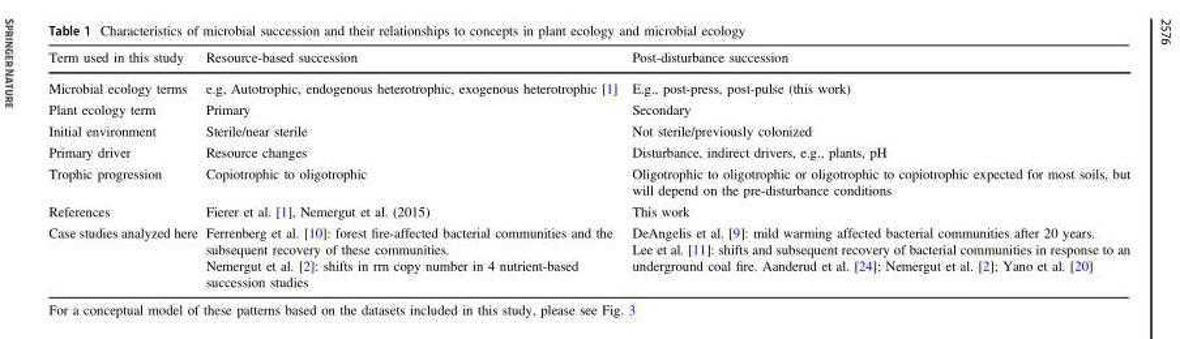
<table><thead><tr><td>Term used in this study</td><td>Resource-based succession</td><td>Post-disturbance succession</td></tr></thead><tbody><tr><td>Microbial ecology terms</td><td>e.g, Autotrophic, endogenous heterotrophic, exogenous heterotrophic [1]</td><td>E.g., post-press, post-pulse (this work)</td></tr><tr><td>Plant ecology term</td><td>Primary</td><td>Secondary</td></tr><tr><td>Initial environment</td><td>Sterile/near sterile</td><td>Not sterile/previously colonized</td></tr><tr><td>Primary driver</td><td>Resource changes</td><td>Disturbance, indirect drivers, e.g., plants, pH</td></tr><tr><td>Trophic progression</td><td>Copiotrophic to oligotrophic</td><td>Oligotrophic to oligotrophic or oligotrophic to copiotrophic expected for most soils, but will depend on the pre-disturbance conditions</td></tr><tr><td>References</td><td>Fierer et al. [1], Nemergut et al. (2015)</td><td>This work</td></tr><tr><td>Case studies analyzed here</td><td>Ferrenberg et al. [10]: forest fire-affected bacterial communities and the subsequent recovery of these communities. Nemergut et al. [2]: shifts in rrn copy number in 4 nutrient-based succession studies</td><td>DeAngelis et al. [9]: mild warming affected bacterial communities after 20 years. Lee et al. [11]: shifts and subsequent recovery of bacterial communities in response to an underground coal fire. Aanderud et al. [24]; Nemergut et al. [2]; Yano et al. [20]</td></tr></tbody></table>